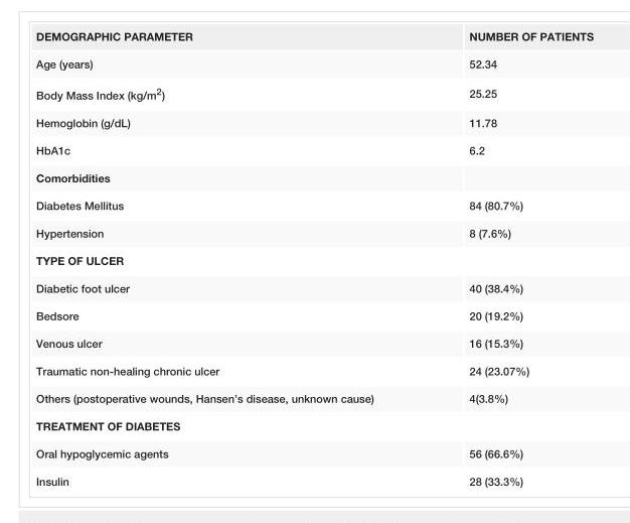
<table><tbody><tr><td>DEMOGRAPHIC PARAMETER</td><td>NUMBER OF PATIENTS</td></tr><tr><td>Age (years)</td><td>52.34</td></tr><tr><td>Body Mass Index (kg/m<sup>2</sup>)</td><td>25.25</td></tr><tr><td>Hemoglobin (g/dL)</td><td>11.78</td></tr><tr><td>HbA1c</td><td>6.2</td></tr><tr><td colspan="2">Comorbidities</td></tr><tr><td>Diabetes Mellitus</td><td>84 (80.7%)</td></tr><tr><td>Hypertension</td><td>8 (7.6%)</td></tr><tr><td colspan="2">TYPE OF ULCER</td></tr><tr><td>Diabetic foot ulcer</td><td>40 (38.4%)</td></tr><tr><td>Bedsore</td><td>20 (19.2%)</td></tr><tr><td>Venous ulcer</td><td>16 (15.3%)</td></tr><tr><td>Traumatic non-healing chronic ulcer</td><td>24 (23.07%)</td></tr><tr><td>Others (postoperative wounds, Hansen’s disease, unknown cause)</td><td>4(3.8%)</td></tr><tr><td colspan="2">TREATMENT OF DIABETES</td></tr><tr><td>Oral hypoglycemic agents</td><td>56 (66.6%)</td></tr><tr><td>Insulin</td><td>28 (33.3%)</td></tr></tbody></table>